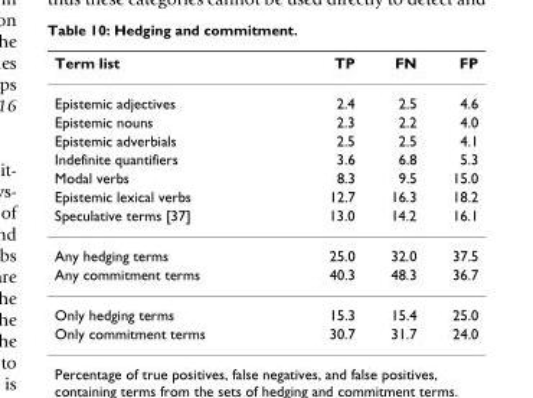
<table><thead><tr><td>Term list</td><td>TP</td><td>FN</td><td>FP</td></tr></thead><tbody><tr><td>Epistemic adjectives</td><td>2.4</td><td>2.5</td><td>4.6</td></tr><tr><td>Epistemic nouns</td><td>2.3</td><td>2.2</td><td>4.0</td></tr><tr><td>Epistemic adverbials</td><td>2.5</td><td>2.5</td><td>4.1</td></tr><tr><td>Indefinite quantifiers</td><td>3.6</td><td>6.8</td><td>5.3</td></tr><tr><td>Modal verbs</td><td>8.3</td><td>9.5</td><td>15.0</td></tr><tr><td>Epistemic lexical verbs</td><td>12.7</td><td>16.3</td><td>18.2</td></tr><tr><td>Speculative terms [37]</td><td>13.0</td><td>14.2</td><td>16.1</td></tr><tr><td>Any hedging terms</td><td>25.0</td><td>32.0</td><td>37.5</td></tr><tr><td>Any commitment terms</td><td>40.3</td><td>48.3</td><td>36.7</td></tr><tr><td>Only hedging terms</td><td>15.3</td><td>15.4</td><td>25.0</td></tr><tr><td>Only commitment terms</td><td>30.7</td><td>31.7</td><td>24.0</td></tr></tbody></table>